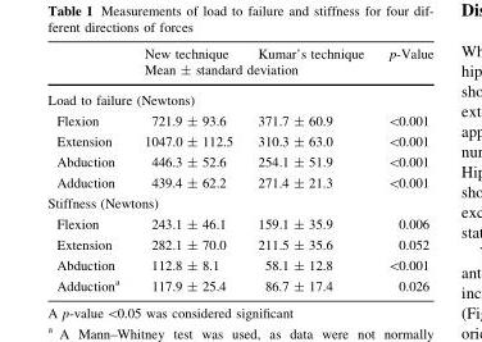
<table><thead><tr><td rowspan="2"></td><td>New technique</td><td>Kumar’s technique</td><td rowspan="2">p-Value</td></tr><tr><td colspan="2">Mean ± standard deviation</td></tr></thead><tbody><tr><td colspan="4">Load to failure (Newtons)</td></tr><tr><td>Flexion</td><td>721.9 ± 93.6</td><td>371.7 ± 60.9</td><td>&lt;0.001</td></tr><tr><td>Extension</td><td>1047.0 ± 112.5</td><td>310.3 ± 63.0</td><td>&lt;0.001</td></tr><tr><td>Abduction</td><td>446.3 ± 52.6</td><td>254.1 ± 51.9</td><td>&lt;0.001</td></tr><tr><td>Adduction</td><td>439.4 ± 62.2</td><td>271.4 ± 21.3</td><td>&lt;0.001</td></tr><tr><td colspan="4">Stiffness (Newtons)</td></tr><tr><td>Flexion</td><td>243.1 ± 46.1</td><td>159.1 ± 35.9</td><td>0.006</td></tr><tr><td>Extension</td><td>282.1 ± 70.0</td><td>211.5 ± 35.6</td><td>0.052</td></tr><tr><td>Abduction</td><td>112.8 ± 8.1</td><td>58.1 ± 12.8</td><td>&lt;0.001</td></tr><tr><td>Adduction<sup>a</sup></td><td>117.9 ± 25.4</td><td>86.7 ± 17.4</td><td>0.026</td></tr></tbody></table>